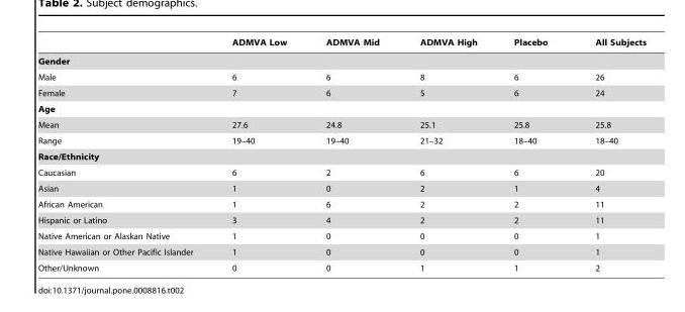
<table><thead><tr><td></td><td>ADMVA Low</td><td>ADMVA Mid</td><td>ADMVA High</td><td>Placebo</td><td>All Subjects</td></tr></thead><tbody><tr><td colspan="6">Gender</td></tr><tr><td>Male</td><td>6</td><td>6</td><td>8</td><td>6</td><td>26</td></tr><tr><td>Female</td><td>7</td><td>6</td><td>5</td><td>6</td><td>24</td></tr><tr><td colspan="6">Age</td></tr><tr><td>Mean</td><td>27.6</td><td>24.8</td><td>25.1</td><td>25.8</td><td>25.8</td></tr><tr><td>Range</td><td>19–40</td><td>19–40</td><td>21–32</td><td>18–40</td><td>18–40</td></tr><tr><td colspan="6">Race/Ethnicity</td></tr><tr><td>Caucasian</td><td>6</td><td>2</td><td>6</td><td>6</td><td>20</td></tr><tr><td>Asian</td><td>1</td><td>0</td><td>2</td><td>1</td><td>4</td></tr><tr><td>African American</td><td>1</td><td>6</td><td>2</td><td>2</td><td>11</td></tr><tr><td>Hispanic or Latino</td><td>3</td><td>4</td><td>2</td><td>2</td><td>11</td></tr><tr><td>Native American or Alaskan Native</td><td>1</td><td>0</td><td>0</td><td>0</td><td>1</td></tr><tr><td>Native Hawaiian or Other Pacific Islander</td><td>1</td><td>0</td><td>0</td><td>0</td><td>1</td></tr><tr><td>Other/Unknown</td><td>0</td><td>0</td><td>1</td><td>1</td><td>2</td></tr></tbody></table>